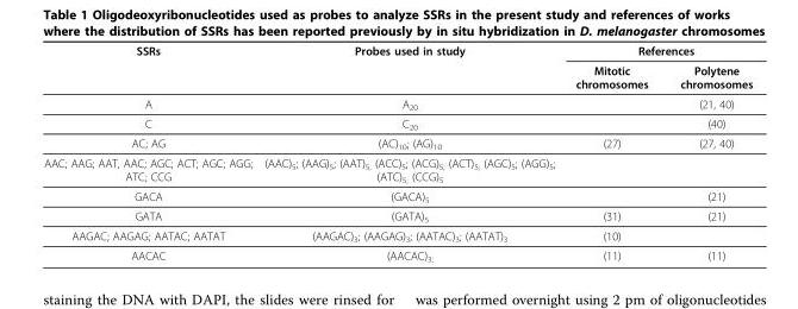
<table><thead><tr><td rowspan="2">SSRs</td><td rowspan="2">Probes used in study</td><td colspan="2">References</td></tr><tr><td>Mitotic chromosomes</td><td>Polytene chromosomes</td></tr></thead><tbody><tr><td>A</td><td>A<sub>20</sub></td><td></td><td>(21, 40)</td></tr><tr><td>C</td><td>C<sub>20</sub></td><td></td><td>(40)</td></tr><tr><td>AC; AG</td><td>(AC)<sub>10</sub>; (AG)<sub>10</sub></td><td>(27)</td><td>(27, 40)</td></tr><tr><td>AAC; AAG; AAT, AAC; AGC; ACT; AGC; AGG; ATC; CCG</td><td>(AAC)<sub>5</sub>; (AAG)<sub>5</sub>; (AAT)<sub>5;</sub> (ACC)<sub>5</sub>; (ACG)<sub>5;</sub> (ACT)<sub>5;</sub> (AGC)<sub>5</sub>; (AGG)<sub>5</sub>; (ATC)<sub>5;</sub> (CCG)<sub>5</sub></td><td></td><td></td></tr><tr><td>GACA</td><td>(GACA)<sub>5</sub></td><td></td><td>(21)</td></tr><tr><td>GATA</td><td>(GATA)<sub>5</sub></td><td>(31)</td><td>(21)</td></tr><tr><td>AAGAC; AAGAG; AATAC; AATAT</td><td>(AAGAC)<sub>3</sub>; (AAGAG)<sub>3</sub>; (AATAC)<sub>3</sub>; (AATAT)<sub>3</sub></td><td>(10)</td><td></td></tr><tr><td>AACAC</td><td>(AACAC)<sub>3;</sub></td><td>(11)</td><td>(11)</td></tr></tbody></table>